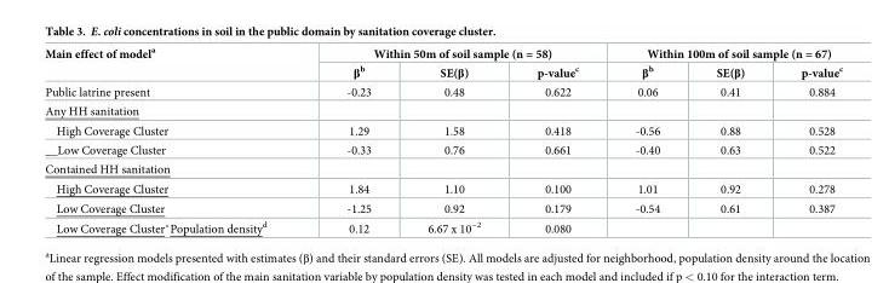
<table><thead><tr><td rowspan="2">Main effect of model<sup>a</sup></td><td colspan="3">Within 50m of soil sample (n = 58)</td><td colspan="3">Within 100m of soil sample (n = 67)</td></tr><tr><td>β<sup>b</sup></td><td>SE(β)</td><td>p-value<sup>c</sup></td><td>β<sup>b</sup></td><td>SE(β)</td><td>p-value<sup>c</sup></td></tr></thead><tbody><tr><td>Public latrine present</td><td>-0.23</td><td>0.48</td><td>0.622</td><td>0.06</td><td>0.41</td><td>0.884</td></tr><tr><td colspan="7">Any HH sanitation</td></tr><tr><td>High Coverage Cluster</td><td>1.29</td><td>1.58</td><td>0.418</td><td>-0.56</td><td>0.88</td><td>0.528</td></tr><tr><td>__Low Coverage Cluster</td><td>-0.33</td><td>0.76</td><td>0.661</td><td>-0.40</td><td>0.63</td><td>0.522</td></tr><tr><td colspan="7">Contained HH sanitation</td></tr><tr><td>High Coverage Cluster</td><td>1.84</td><td>1.10</td><td>0.100</td><td>1.01</td><td>0.92</td><td>0.278</td></tr><tr><td>Low Coverage Cluster</td><td>-1.25</td><td>0.92</td><td>0.179</td><td>-0.54</td><td>0.61</td><td>0.387</td></tr><tr><td>Low Coverage Cluster*Population density<sup>d</sup></td><td>0.12</td><td>6.67 x 10<sup>−2</sup></td><td>0.080</td><td></td><td></td><td></td></tr></tbody></table>